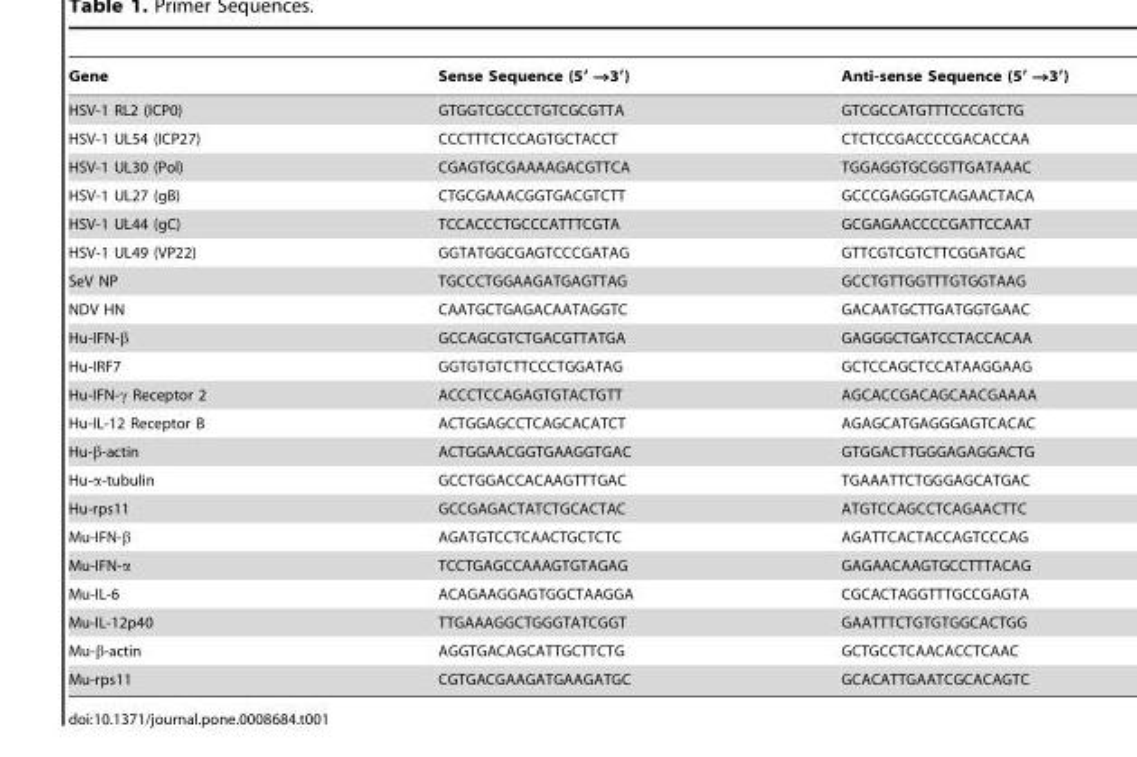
<table><thead><tr><td>Gene</td><td>Sense Sequence (5′ →3′)</td><td>Anti-sense Sequence (5′ →3′)</td></tr></thead><tbody><tr><td>HSV-1 RL2 (ICP0)</td><td>GTGGTCGCCCTGTCGCGTTA</td><td>GTCGCCATGTTTCCCGTCTG</td></tr><tr><td>HSV-1 UL54 (ICP27)</td><td>CCCTTTCTCCAGTGCTACCT</td><td>CTCTCCGACCCCGACACCAA</td></tr><tr><td>HSV-1 UL30 (Pol)</td><td>CGAGTGCGAAAAGACGTTCA</td><td>TGGAGGTGCGGTTGATAAAC</td></tr><tr><td>HSV-1 UL27 (gB)</td><td>CTGCGAAACGGTGACGTCTT</td><td>GCCCGAGGGTCAGAACTACA</td></tr><tr><td>HSV-1 UL44 (gC)</td><td>TCCACCCTGCCCATTTCGTA</td><td>GCGAGAACCCCGATTCCAAT</td></tr><tr><td>HSV-1 UL49 (VP22)</td><td>GGTATGGCGAGTCCCGATAG</td><td>GTTCGTCGTCTTCGGATGAC</td></tr><tr><td>SeV NP</td><td>TGCCCTGGAAGATGAGTTAG</td><td>GCCTGTTGGTTTGTGGTAAG</td></tr><tr><td>NDV HN</td><td>CAATGCTGAGACAATAGGTC</td><td>GACAATGCTTGATGGTGAAC</td></tr><tr><td>Hu-IFN-β</td><td>GCCAGCGTCTGACGTTATGA</td><td>GAGGGCTGATCCTACCACAA</td></tr><tr><td>Hu-IRF7</td><td>GGTGTGTCTTCCCTGGATAG</td><td>GCTCCAGCTCCATAAGGAAG</td></tr><tr><td>Hu-IFN-γ Receptor 2</td><td>ACCCTCCAGAGTGTACTGTT</td><td>AGCACCGACAGCAACGAAAA</td></tr><tr><td>Hu-IL-12 Receptor B</td><td>ACTGGAGCCTCAGCACATCT</td><td>AGAGCATGAGGGAGTCACAC</td></tr><tr><td>Hu-β-actin</td><td>ACTGGAACGGTGAAGGTGAC</td><td>GTGGACTTGGGAGAGGACTG</td></tr><tr><td>Hu-α-tubulin</td><td>GCCTGGACCACAAGTTTGAC</td><td>TGAAATTCTGGGAGCATGAC</td></tr><tr><td>Hu-rps11</td><td>GCCGAGACTATCTGCACTAC</td><td>ATGTCCAGCCTCAGAACTTC</td></tr><tr><td>Mu-IFN-β</td><td>AGATGTCCTCAACTGCTCTC</td><td>AGATTCACTACCAGTCCCAG</td></tr><tr><td>Mu-IFN-α</td><td>TCCTGAGCCAAAGTGTAGAG</td><td>GAGAACAAGTGCCTTTACAG</td></tr><tr><td>Mu-IL-6</td><td>ACAGAAGGAGTGGCTAAGGA</td><td>CGCACTAGGTTTGCCGAGTA</td></tr><tr><td>Mu-IL-12p40</td><td>TTGAAAGGCTGGGTATCGGT</td><td>GAATTTCTGTGTGGCACTGG</td></tr><tr><td>Mu-β-actin</td><td>AGGTGACAGCATTGCTTCTG</td><td>GCTGCCTCAACACCTCAAC</td></tr><tr><td>Mu-rps11</td><td>CGTGACGAAGATGAAGATGC</td><td>GCACATTGAATCGCACAGTC</td></tr></tbody></table>